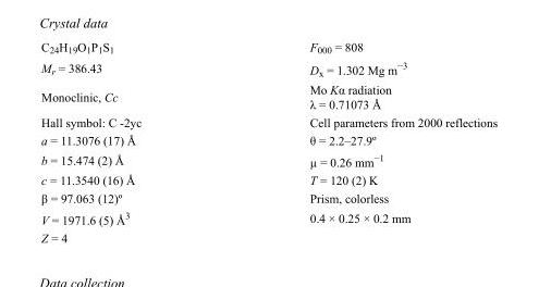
<table><tbody><tr><td>C<sub>24</sub>H<sub>19</sub>O<sub>1</sub>P<sub>1</sub>S<sub>1</sub></td><td>F<sub>000</sub> = 808</td></tr><tr><td>M<sub>r</sub> = 386.43</td><td>D<sub>x</sub> = 1.302 Mg m<sup>−3</sup></td></tr><tr><td>Monoclinic, Cc</td><td>Mo Kα radiation λ = 0.71073 Å</td></tr><tr><td>Hall symbol: C -2yc</td><td>Cell parameters from 2000 reflections</td></tr><tr><td>a = 11.3076 (17) Å</td><td>θ = 2.2–27.9º</td></tr><tr><td>b = 15.474 (2) Å</td><td>µ = 0.26 mm<sup>−1</sup></td></tr><tr><td>c = 11.3540 (16) Å</td><td>T = 120 (2) K</td></tr><tr><td>β = 97.063 (12)º</td><td>Prism, colorless</td></tr><tr><td>V = 1971.6 (5) Å<sup>3</sup></td><td>0.4 × 0.25 × 0.2 mm</td></tr><tr><td>Z = 4</td><td></td></tr></tbody></table>